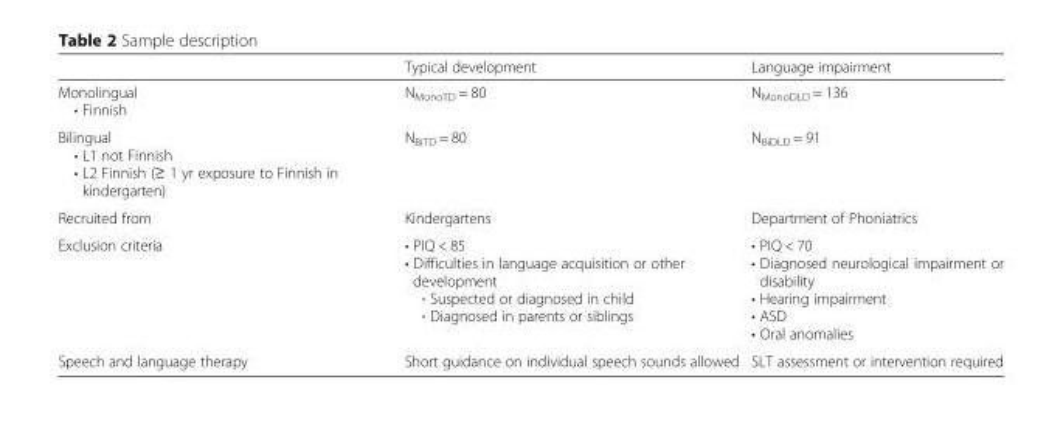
<table><thead><tr><td></td><td>Typical development</td><td>Language impairment</td></tr></thead><tbody><tr><td>Monolingual • Finnish</td><td>N<sub>MonoTD</sub> = 80</td><td>N<sub>MonoDLD</sub> = 136</td></tr><tr><td>Bilingual • L1 not Finnish • L2 Finnish (≥ 1 yr exposure to Finnish in kindergarten)</td><td>N<sub>BiTD</sub> = 80</td><td>N<sub>BiDLD</sub> = 91</td></tr><tr><td>Recruited from</td><td>Kindergartens</td><td>Department of Phoniatrics</td></tr><tr><td>Exclusion criteria</td><td>• PIQ &lt; 85 • Difficulties in language acquisition or other development ∘ Suspected or diagnosed in child ∘ Diagnosed in parents or siblings</td><td>• PIQ &lt; 70 • Diagnosed neurological impairment or disability • Hearing impairment • ASD • Oral anomalies</td></tr><tr><td>Speech and language therapy</td><td>Short guidance on individual speech sounds allowed</td><td>SLT assessment or intervention required</td></tr></tbody></table>